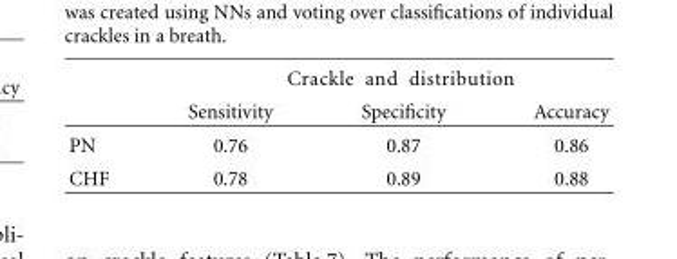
<table><thead><tr><td rowspan="2"></td><td colspan="3">Crackle and distribution</td></tr><tr><td>Sensitivity</td><td>Specificity</td><td>Accuracy</td></tr></thead><tbody><tr><td>PN</td><td>0.76</td><td>0.87</td><td>0.86</td></tr><tr><td>CHF</td><td>0.78</td><td>0.89</td><td>0.88</td></tr></tbody></table>